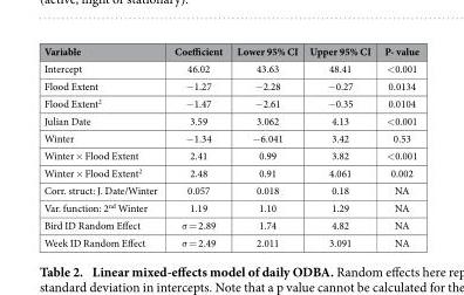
<table><thead><tr><td>Variable</td><td>Coefficient</td><td>Lower 95% CI</td><td>Upper 95% CI</td><td>P- value</td></tr></thead><tbody><tr><td>Intercept</td><td>46.02</td><td>43.63</td><td>48.41</td><td>&lt; 0.001</td></tr><tr><td>Flood Extent</td><td>− 1.27</td><td>− 2.28</td><td>− 0.27</td><td>0.0134</td></tr><tr><td>Flood Extent<sup>2</sup></td><td>− 1.47</td><td>− 2.61</td><td>− 0.35</td><td>0.0104</td></tr><tr><td>Julian Date</td><td>3.59</td><td>3.062</td><td>4.13</td><td>&lt; 0.001</td></tr><tr><td>Winter</td><td>− 1.34</td><td>− 6.041</td><td>3.42</td><td>0.53</td></tr><tr><td>Winter × Flood Extent</td><td>2.41</td><td>0.99</td><td>3.82</td><td>&lt; 0.001</td></tr><tr><td>Winter × Flood Extent<sup>2</sup></td><td>2.48</td><td>0.91</td><td>4.061</td><td>0.002</td></tr><tr><td>Corr. struct: J. Date/Winter</td><td>0.057</td><td>0.018</td><td>0.18</td><td>NA</td></tr><tr><td>Var. function: 2<sup>nd</sup> Winter</td><td>1.19</td><td>1.10</td><td>1.29</td><td>NA</td></tr><tr><td>Bird ID Random Effect</td><td>σ = 2.89</td><td>1.74</td><td>4.82</td><td>NA</td></tr><tr><td>Week ID Random Effect</td><td>σ = 2.49</td><td>2.011</td><td>3.091</td><td>NA</td></tr></tbody></table>